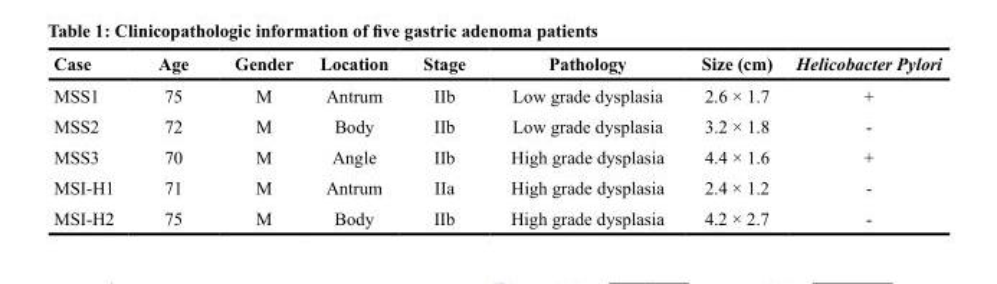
<table><thead><tr><td>Case</td><td>Age</td><td>Gender</td><td>Location</td><td>Stage</td><td>Pathology</td><td>Size (cm)</td><td>Helicobacter Pylori</td></tr></thead><tbody><tr><td>MSS1</td><td>75</td><td>M</td><td>Antrum</td><td>IIb</td><td>Low grade dysplasia</td><td>2.6 × 1.7</td><td>+</td></tr><tr><td>MSS2</td><td>72</td><td>M</td><td>Body</td><td>IIb</td><td>Low grade dysplasia</td><td>3.2 × 1.8</td><td>-</td></tr><tr><td>MSS3</td><td>70</td><td>M</td><td>Angle</td><td>IIb</td><td>High grade dysplasia</td><td>4.4 × 1.6</td><td>+</td></tr><tr><td>MSI-H1</td><td>71</td><td>M</td><td>Antrum</td><td>IIa</td><td>High grade dysplasia</td><td>2.4 × 1.2</td><td>-</td></tr><tr><td>MSI-H2</td><td>75</td><td>M</td><td>Body</td><td>IIb</td><td>High grade dysplasia</td><td>4.2 × 2.7</td><td>-</td></tr></tbody></table>